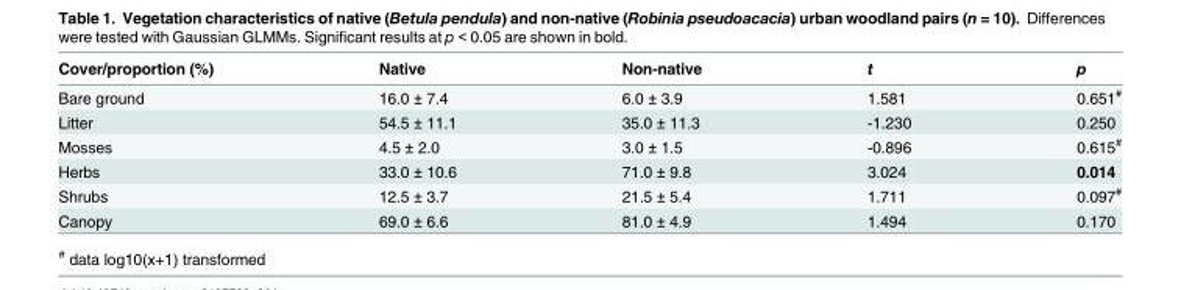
<table><thead><tr><td>Cover/proportion (%)</td><td>Native</td><td>Non-native</td><td>t</td><td>p</td></tr></thead><tbody><tr><td>Bare ground</td><td>16.0 ± 7.4</td><td>6.0 ± 3.9</td><td>1.581</td><td>0.651<sup>#</sup></td></tr><tr><td>Litter</td><td>54.5 ± 11.1</td><td>35.0 ± 11.3</td><td>-1.230</td><td>0.250</td></tr><tr><td>Mosses</td><td>4.5 ± 2.0</td><td>3.0 ± 1.5</td><td>-0.896</td><td>0.615<sup>#</sup></td></tr><tr><td>Herbs</td><td>33.0 ± 10.6</td><td>71.0 ± 9.8</td><td>3.024</td><td>0.014</td></tr><tr><td>Shrubs</td><td>12.5 ± 3.7</td><td>21.5 ± 5.4</td><td>1.711</td><td>0.097<sup>#</sup></td></tr><tr><td>Canopy</td><td>69.0 ± 6.6</td><td>81.0 ± 4.9</td><td>1.494</td><td>0.170</td></tr></tbody></table>